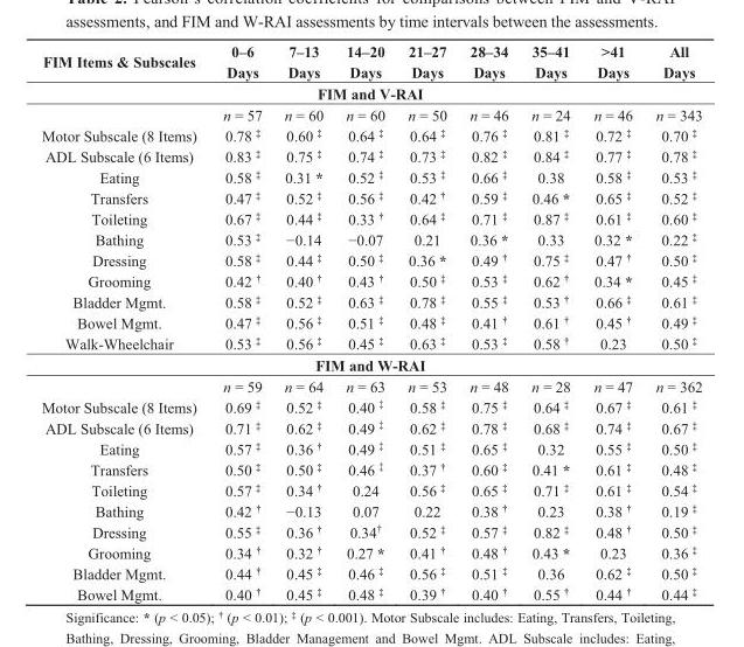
<table><thead><tr><td>FIM Items &amp; Subscales</td><td>0–6 Days</td><td>7–13 Days</td><td>14–20 Days</td><td>21–27 Days</td><td>28–34 Days</td><td>35–41 Days</td><td>&gt;41 Days</td><td>All Days</td></tr></thead><tbody><tr><td colspan="9">FIM and V-RAI</td></tr><tr><td></td><td>n = 57</td><td>n = 60</td><td>n = 60</td><td>n = 50</td><td>n = 46</td><td>n = 24</td><td>n = 46</td><td>n = 343</td></tr><tr><td>Motor Subscale (8 Items)</td><td>0.78 <sup>‡</sup></td><td>0.60 <sup>‡</sup></td><td>0.64 <sup>‡</sup></td><td>0.64 <sup>‡</sup></td><td>0.76 <sup>‡</sup></td><td>0.81 <sup>‡</sup></td><td>0.72 <sup>‡</sup></td><td>0.70 <sup>‡</sup></td></tr><tr><td>ADL Subscale (6 Items)</td><td>0.83 <sup>‡</sup></td><td>0.75 <sup>‡</sup></td><td>0.74 <sup>‡</sup></td><td>0.73 <sup>‡</sup></td><td>0.82 <sup>‡</sup></td><td>0.84 <sup>‡</sup></td><td>0.77 <sup>‡</sup></td><td>0.78 <sup>‡</sup></td></tr><tr><td>Eating</td><td>0.58 <sup>‡</sup></td><td>0.31 *</td><td>0.52 <sup>‡</sup></td><td>0.53 <sup>‡</sup></td><td>0.66 <sup>‡</sup></td><td>0.38</td><td>0.58 <sup>‡</sup></td><td>0.53 <sup>‡</sup></td></tr><tr><td>Transfers</td><td>0.47 <sup>‡</sup></td><td>0.52 <sup>‡</sup></td><td>0.56 <sup>‡</sup></td><td>0.42 <sup>†</sup></td><td>0.59 <sup>‡</sup></td><td>0.46 *</td><td>0.65 <sup>‡</sup></td><td>0.52 <sup>‡</sup></td></tr><tr><td>Toileting</td><td>0.67 <sup>‡</sup></td><td>0.44 <sup>‡</sup></td><td>0.33 <sup>†</sup></td><td>0.64 <sup>‡</sup></td><td>0.71 <sup>‡</sup></td><td>0.87 <sup>‡</sup></td><td>0.61 <sup>‡</sup></td><td>0.60 <sup>‡</sup></td></tr><tr><td>Bathing</td><td>0.53 <sup>‡</sup></td><td>−0.14</td><td>−0.07</td><td>0.21</td><td>0.36 *</td><td>0.33</td><td>0.32 *</td><td>0.22 <sup>‡</sup></td></tr><tr><td>Dressing</td><td>0.58 <sup>‡</sup></td><td>0.44 <sup>‡</sup></td><td>0.50 <sup>‡</sup></td><td>0.36 *</td><td>0.49 <sup>†</sup></td><td>0.75 <sup>‡</sup></td><td>0.47 <sup>†</sup></td><td>0.50 <sup>‡</sup></td></tr><tr><td>Grooming</td><td>0.42 <sup>†</sup></td><td>0.40 <sup>†</sup></td><td>0.43 <sup>†</sup></td><td>0.50 <sup>‡</sup></td><td>0.53 <sup>‡</sup></td><td>0.62 <sup>†</sup></td><td>0.34 *</td><td>0.45 <sup>‡</sup></td></tr><tr><td>Bladder Mgmt.</td><td>0.58 <sup>‡</sup></td><td>0.52 <sup>‡</sup></td><td>0.63 <sup>‡</sup></td><td>0.78 <sup>‡</sup></td><td>0.55 <sup>‡</sup></td><td>0.53 <sup>†</sup></td><td>0.66 <sup>‡</sup></td><td>0.61 <sup>‡</sup></td></tr><tr><td>Bowel Mgmt.</td><td>0.47 <sup>‡</sup></td><td>0.56 <sup>‡</sup></td><td>0.51 <sup>‡</sup></td><td>0.48 <sup>‡</sup></td><td>0.41 <sup>†</sup></td><td>0.61 <sup>†</sup></td><td>0.45 <sup>†</sup></td><td>0.49 <sup>‡</sup></td></tr><tr><td>Walk-Wheelchair</td><td>0.53 <sup>‡</sup></td><td>0.56 <sup>‡</sup></td><td>0.45 <sup>‡</sup></td><td>0.63 <sup>‡</sup></td><td>0.53 <sup>‡</sup></td><td>0.58 <sup>†</sup></td><td>0.23</td><td>0.50 <sup>‡</sup></td></tr><tr><td colspan="9">FIM and W-RAI</td></tr><tr><td></td><td>n = 59</td><td>n = 64</td><td>n = 63</td><td>n = 53</td><td>n = 48</td><td>n = 28</td><td>n = 47</td><td>n = 362</td></tr><tr><td>Motor Subscale (8 Items)</td><td>0.69 <sup>‡</sup></td><td>0.52 <sup>‡</sup></td><td>0.40 <sup>‡</sup></td><td>0.58 <sup>‡</sup></td><td>0.75 <sup>‡</sup></td><td>0.64 <sup>‡</sup></td><td>0.67 <sup>‡</sup></td><td>0.61 <sup>‡</sup></td></tr><tr><td>ADL Subscale (6 Items)</td><td>0.71 <sup>‡</sup></td><td>0.62 <sup>‡</sup></td><td>0.49 <sup>‡</sup></td><td>0.62 <sup>‡</sup></td><td>0.78 <sup>‡</sup></td><td>0.68 <sup>‡</sup></td><td>0.74 <sup>‡</sup></td><td>0.67 <sup>‡</sup></td></tr><tr><td>Eating</td><td>0.57 <sup>‡</sup></td><td>0.36 <sup>†</sup></td><td>0.49 <sup>‡</sup></td><td>0.51 <sup>‡</sup></td><td>0.65 <sup>‡</sup></td><td>0.32</td><td>0.55 <sup>‡</sup></td><td>0.50 <sup>‡</sup></td></tr><tr><td>Transfers</td><td>0.50 <sup>‡</sup></td><td>0.50 <sup>‡</sup></td><td>0.46 <sup>‡</sup></td><td>0.37 <sup>†</sup></td><td>0.60 <sup>‡</sup></td><td>0.41 *</td><td>0.61 <sup>‡</sup></td><td>0.48 <sup>‡</sup></td></tr><tr><td>Toileting</td><td>0.57 <sup>‡</sup></td><td>0.34 <sup>†</sup></td><td>0.24</td><td>0.56 <sup>‡</sup></td><td>0.65 <sup>‡</sup></td><td>0.71 <sup>‡</sup></td><td>0.61 <sup>‡</sup></td><td>0.54 <sup>‡</sup></td></tr><tr><td>Bathing</td><td>0.42 <sup>†</sup></td><td>−0.13</td><td>0.07</td><td>0.22</td><td>0.38 <sup>†</sup></td><td>0.23</td><td>0.38 <sup>†</sup></td><td>0.19 <sup>‡</sup></td></tr><tr><td>Dressing</td><td>0.55 <sup>‡</sup></td><td>0.36 <sup>†</sup></td><td>0.34<sup>†</sup></td><td>0.52 <sup>‡</sup></td><td>0.57 <sup>‡</sup></td><td>0.82 <sup>‡</sup></td><td>0.48 <sup>†</sup></td><td>0.50 <sup>‡</sup></td></tr><tr><td>Grooming</td><td>0.34 <sup>†</sup></td><td>0.32 <sup>†</sup></td><td>0.27 *</td><td>0.41 <sup>†</sup></td><td>0.48 <sup>†</sup></td><td>0.43 *</td><td>0.23</td><td>0.36 <sup>‡</sup></td></tr><tr><td>Bladder Mgmt.</td><td>0.44 <sup>†</sup></td><td>0.45 <sup>‡</sup></td><td>0.46 <sup>‡</sup></td><td>0.56 <sup>‡</sup></td><td>0.51 <sup>‡</sup></td><td>0.36</td><td>0.62 <sup>‡</sup></td><td>0.50 <sup>‡</sup></td></tr><tr><td>Bowel Mgmt.</td><td>0.40 <sup>†</sup></td><td>0.45 <sup>‡</sup></td><td>0.48 <sup>‡</sup></td><td>0.39 <sup>†</sup></td><td>0.40 <sup>†</sup></td><td>0.55 <sup>†</sup></td><td>0.44 <sup>†</sup></td><td>0.44 <sup>‡</sup></td></tr></tbody></table>